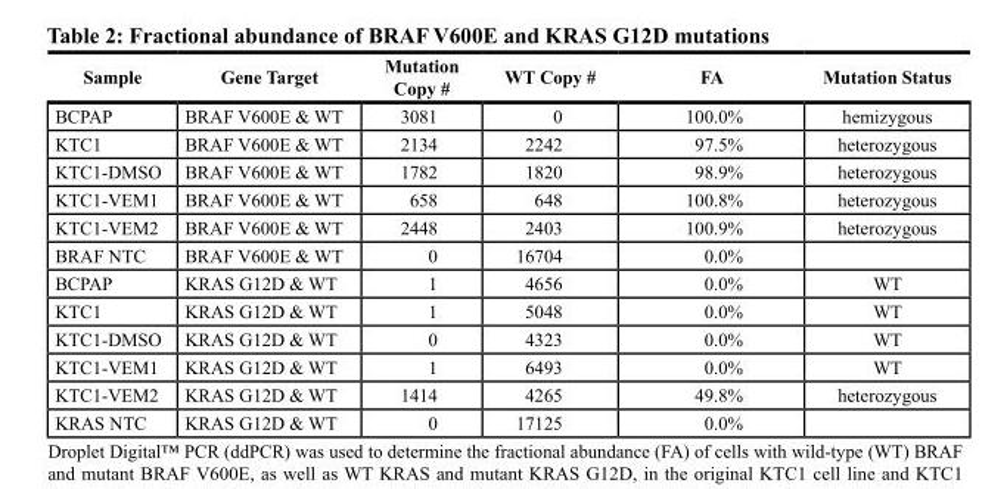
<table><thead><tr><td>Sample</td><td>Gene Target</td><td>Mutation Copy #</td><td>WT Copy #</td><td>FA</td><td>Mutation Status</td></tr></thead><tbody><tr><td>BCPAP</td><td>BRAF V600E &amp; WT</td><td>3081</td><td>0</td><td>100.0%</td><td>hemizygous</td></tr><tr><td>KTC1</td><td>BRAF V600E &amp; WT</td><td>2134</td><td>2242</td><td>97.5%</td><td>heterozygous</td></tr><tr><td>KTC1-DMSO</td><td>BRAF V600E &amp; WT</td><td>1782</td><td>1820</td><td>98.9%</td><td>heterozygous</td></tr><tr><td>KTC1-VEM1</td><td>BRAF V600E &amp; WT</td><td>658</td><td>648</td><td>100.8%</td><td>heterozygous</td></tr><tr><td>KTC1-VEM2</td><td>BRAF V600E &amp; WT</td><td>2448</td><td>2403</td><td>100.9%</td><td>heterozygous</td></tr><tr><td>BRAF NTC</td><td>BRAF V600E &amp; WT</td><td>0</td><td>16704</td><td>0.0%</td><td></td></tr><tr><td>BCPAP</td><td>KRAS G12D &amp; WT</td><td>1</td><td>4656</td><td>0.0%</td><td>WT</td></tr><tr><td>KTC1</td><td>KRAS G12D &amp; WT</td><td>1</td><td>5048</td><td>0.0%</td><td>WT</td></tr><tr><td>KTC1-DMSO</td><td>KRAS G12D &amp; WT</td><td>0</td><td>4323</td><td>0.0%</td><td>WT</td></tr><tr><td>KTC1-VEM1</td><td>KRAS G12D &amp; WT</td><td>1</td><td>6493</td><td>0.0%</td><td>WT</td></tr><tr><td>KTC1-VEM2</td><td>KRAS G12D &amp; WT</td><td>1414</td><td>4265</td><td>49.8%</td><td>heterozygous</td></tr><tr><td>KRAS NTC</td><td>KRAS G12D &amp; WT</td><td>0</td><td>17125</td><td>0.0%</td><td></td></tr></tbody></table>